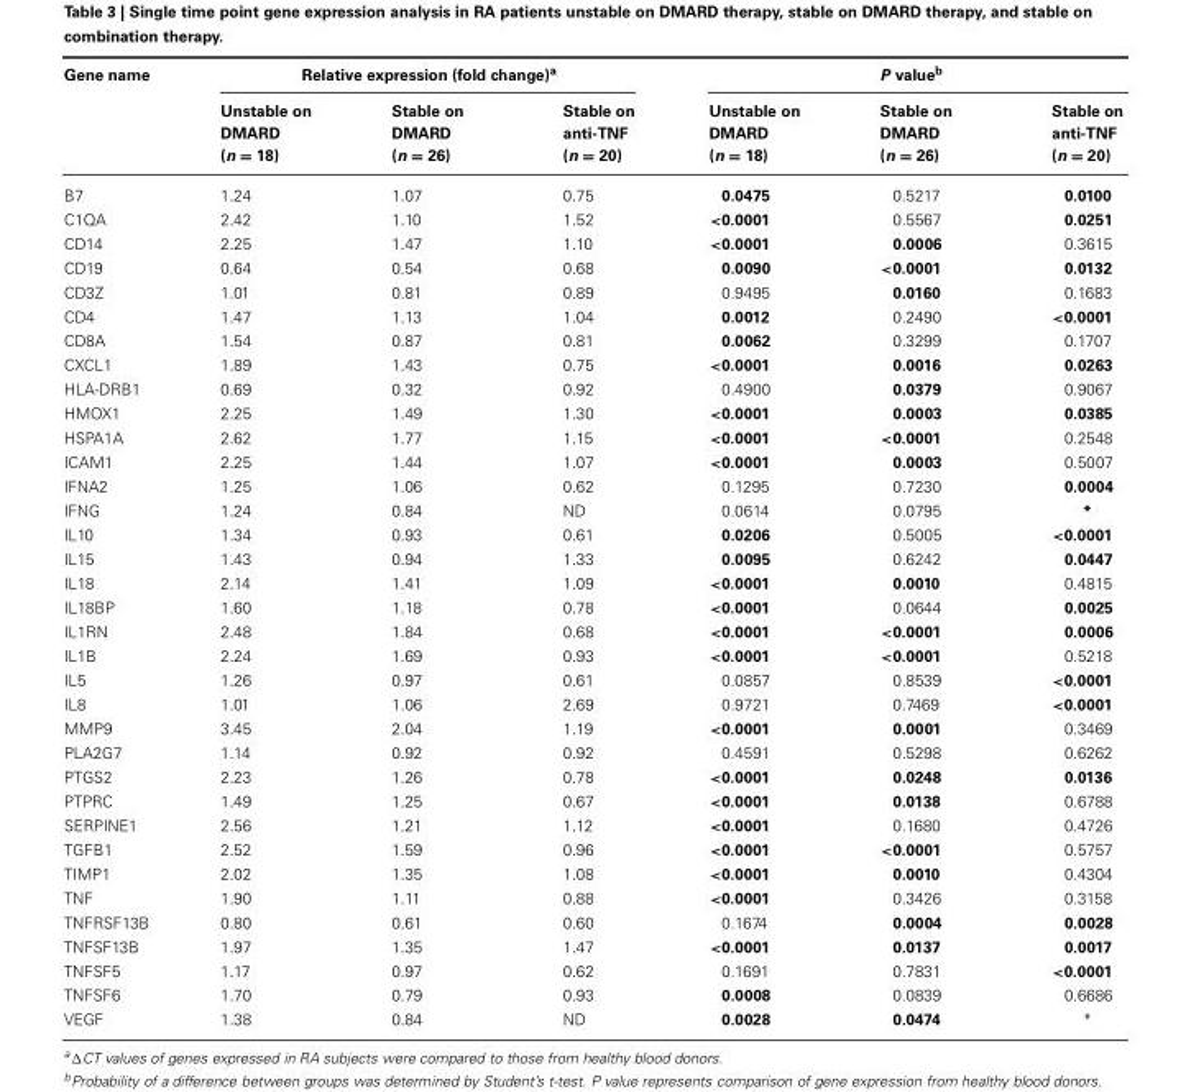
<table><thead><tr><td rowspan="2">Gene name</td><td colspan="3">Relative expression (fold change)<sup>a</sup></td><td colspan="3">P value<sup>b</sup></td></tr><tr><td>Unstable on DMARD (n = 18)</td><td>Stable on DMARD (n = 26)</td><td>Stable on anti-TNF (n = 20)</td><td>Unstable on DMARD (n = 18)</td><td>Stable on DMARD (n = 26)</td><td>Stable on anti-TNF (n = 20)</td></tr></thead><tbody><tr><td>B7</td><td>1.24</td><td>1.07</td><td>0.75</td><td>0.0475</td><td>0.5217</td><td>0.0100</td></tr><tr><td>C1QA</td><td>2.42</td><td>1.10</td><td>1.52</td><td>&lt;0.0001</td><td>0.5567</td><td>0.0251</td></tr><tr><td>CD14</td><td>2.25</td><td>1.47</td><td>1.10</td><td>&lt;0.0001</td><td>0.0006</td><td>0.3615</td></tr><tr><td>CD19</td><td>0.64</td><td>0.54</td><td>0.68</td><td>0.0090</td><td>&lt;0.0001</td><td>0.0132</td></tr><tr><td>CD3Z</td><td>1.01</td><td>0.81</td><td>0.89</td><td>0.9495</td><td>0.0160</td><td>0.1683</td></tr><tr><td>CD4</td><td>1.47</td><td>1.13</td><td>1.04</td><td>0.0012</td><td>0.2490</td><td>&lt;0.0001</td></tr><tr><td>CD8A</td><td>1.54</td><td>0.87</td><td>0.81</td><td>0.0062</td><td>0.3299</td><td>0.1707</td></tr><tr><td>CXCL1</td><td>1.89</td><td>1.43</td><td>0.75</td><td>&lt;0.0001</td><td>0.0016</td><td>0.0263</td></tr><tr><td>HLA-DRB1</td><td>0.69</td><td>0.32</td><td>0.92</td><td>0.4900</td><td>0.0379</td><td>0.9067</td></tr><tr><td>HMOX1</td><td>2.25</td><td>1.49</td><td>1.30</td><td>&lt;0.0001</td><td>0.0003</td><td>0.0385</td></tr><tr><td>HSPA1A</td><td>2.62</td><td>1.77</td><td>1.15</td><td>&lt;0.0001</td><td>&lt;0.0001</td><td>0.2548</td></tr><tr><td>ICAM1</td><td>2.25</td><td>1.44</td><td>1.07</td><td>&lt;0.0001</td><td>0.0003</td><td>0.5007</td></tr><tr><td>IFNA2</td><td>1.25</td><td>1.06</td><td>0.62</td><td>0.1295</td><td>0.7230</td><td>0.0004</td></tr><tr><td>IFNG</td><td>1.24</td><td>0.84</td><td>ND</td><td>0.0614</td><td>0.0795</td><td>*</td></tr><tr><td>IL10</td><td>1.34</td><td>0.93</td><td>0.61</td><td>0.0206</td><td>0.5005</td><td>&lt;0.0001</td></tr><tr><td>IL15</td><td>1.43</td><td>0.94</td><td>1.33</td><td>0.0095</td><td>0.6242</td><td>0.0447</td></tr><tr><td>IL18</td><td>2.14</td><td>1.41</td><td>1.09</td><td>&lt;0.0001</td><td>0.0010</td><td>0.4815</td></tr><tr><td>IL18BP</td><td>1.60</td><td>1.18</td><td>0.78</td><td>&lt;0.0001</td><td>0.0644</td><td>0.0025</td></tr><tr><td>IL1RN</td><td>2.48</td><td>1.84</td><td>0.68</td><td>&lt;0.0001</td><td>&lt;0.0001</td><td>0.0006</td></tr><tr><td>IL1B</td><td>2.24</td><td>1.69</td><td>0.93</td><td>&lt;0.0001</td><td>&lt;0.0001</td><td>0.5218</td></tr><tr><td>IL5</td><td>1.26</td><td>0.97</td><td>0.61</td><td>0.0857</td><td>0.8539</td><td>&lt;0.0001</td></tr><tr><td>IL8</td><td>1.01</td><td>1.06</td><td>2.69</td><td>0.9721</td><td>0.7469</td><td>&lt;0.0001</td></tr><tr><td>MMP9</td><td>3.45</td><td>2.04</td><td>1.19</td><td>&lt;0.0001</td><td>0.0001</td><td>0.3469</td></tr><tr><td>PLA2G7</td><td>1.14</td><td>0.92</td><td>0.92</td><td>0.4591</td><td>0.5298</td><td>0.6262</td></tr><tr><td>PTGS2</td><td>2.23</td><td>1.26</td><td>0.78</td><td>&lt;0.0001</td><td>0.0248</td><td>0.0136</td></tr><tr><td>PTPRC</td><td>1.49</td><td>1.25</td><td>0.67</td><td>&lt;0.0001</td><td>0.0138</td><td>0.6788</td></tr><tr><td>SERPINE1</td><td>2.56</td><td>1.21</td><td>1.12</td><td>&lt;0.0001</td><td>0.1680</td><td>0.4726</td></tr><tr><td>TGFB1</td><td>2.52</td><td>1.59</td><td>0.96</td><td>&lt;0.0001</td><td>&lt;0.0001</td><td>0.5757</td></tr><tr><td>TIMP1</td><td>2.02</td><td>1.35</td><td>1.08</td><td>&lt;0.0001</td><td>0.0010</td><td>0.4304</td></tr><tr><td>TNF</td><td>1.90</td><td>1.11</td><td>0.88</td><td>&lt;0.0001</td><td>0.3426</td><td>0.3158</td></tr><tr><td>TNFRSF13B</td><td>0.80</td><td>0.61</td><td>0.60</td><td>0.1674</td><td>0.0004</td><td>0.0028</td></tr><tr><td>TNFSF13B</td><td>1.97</td><td>1.35</td><td>1.47</td><td>&lt;0.0001</td><td>0.0137</td><td>0.0017</td></tr><tr><td>TNFSF5</td><td>1.17</td><td>0.97</td><td>0.62</td><td>0.1691</td><td>0.7831</td><td>&lt;0.0001</td></tr><tr><td>TNFSF6</td><td>1.70</td><td>0.79</td><td>0.93</td><td>0.0008</td><td>0.0839</td><td>0.6686</td></tr><tr><td>VEGF</td><td>1.38</td><td>0.84</td><td>ND</td><td>0.0028</td><td>0.0474</td><td>*</td></tr></tbody></table>